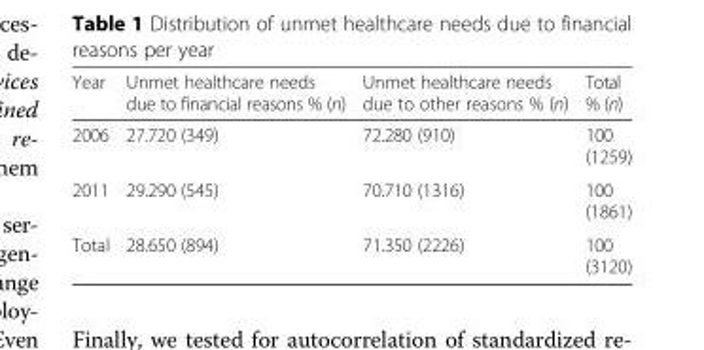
<table><thead><tr><td>Year</td><td>Unmet healthcare needs due to financial reasons % (n)</td><td>Unmet healthcare needs due to other reasons % (n)</td><td>Total % (n)</td></tr></thead><tbody><tr><td>2006</td><td>27.720 (349)</td><td>72.280 (910)</td><td>100 (1259)</td></tr><tr><td>2011</td><td>29.290 (545)</td><td>70.710 (1316)</td><td>100 (1861)</td></tr><tr><td>Total</td><td>28.650 (894)</td><td>71.350 (2226)</td><td>100 (3120)</td></tr></tbody></table>